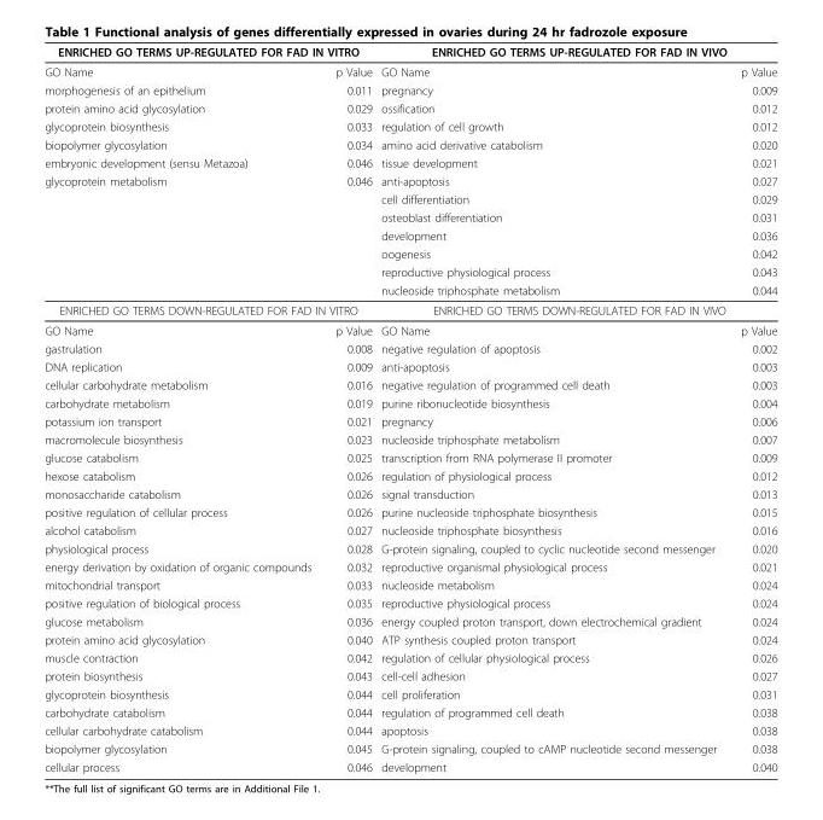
<table><thead><tr><td colspan="2">ENRICHED GO TERMS UP-REGULATED FOR FAD IN VITRO</td><td colspan="2">ENRICHED GO TERMS UP-REGULATED FOR FAD IN VIVO</td></tr><tr><td>GO Name</td><td>p Value</td><td>GO Name</td><td>p Value</td></tr></thead><tbody><tr><td>morphogenesis of an epithelium</td><td>0.011</td><td>pregnancy</td><td>0.009</td></tr><tr><td>protein amino acid glycosylation</td><td>0.029</td><td>ossification</td><td>0.012</td></tr><tr><td>glycoprotein biosynthesis</td><td>0.033</td><td>regulation of cell growth</td><td>0.012</td></tr><tr><td>biopolymer glycosylation</td><td>0.034</td><td>amino acid derivative catabolism</td><td>0.020</td></tr><tr><td>embryonic development (sensu Metazoa)</td><td>0.046</td><td>tissue development</td><td>0.021</td></tr><tr><td rowspan="7">glycoprotein metabolism</td><td>0.046</td><td>anti-apoptosis</td><td>0.027</td></tr><tr><td></td><td>cell differentiation</td><td>0.029</td></tr><tr><td></td><td>osteoblast differentiation</td><td>0.031</td></tr><tr><td></td><td>development</td><td>0.036</td></tr><tr><td></td><td>oogenesis</td><td>0.042</td></tr><tr><td></td><td>reproductive physiological process</td><td>0.043</td></tr><tr><td></td><td>nucleoside triphosphate metabolism</td><td>0.044</td></tr><tr><td colspan="2">ENRICHED GO TERMS DOWN-REGULATED FOR FAD IN VITRO</td><td colspan="2">ENRICHED GO TERMS DOWN-REGULATED FOR FAD IN VIVO</td></tr><tr><td>GO Name</td><td>p Value</td><td>GO Name</td><td>p Value</td></tr><tr><td>gastrulation</td><td>0.008</td><td>negative regulation of apoptosis</td><td>0.002</td></tr><tr><td>DNA replication</td><td>0.009</td><td>anti-apoptosis</td><td>0.003</td></tr><tr><td>cellular carbohydrate metabolism</td><td>0.016</td><td>negative regulation of programmed cell death</td><td>0.003</td></tr><tr><td>carbohydrate metabolism</td><td>0.019</td><td>purine ribonucleotide biosynthesis</td><td>0.004</td></tr><tr><td>potassium ion transport</td><td>0.021</td><td>pregnancy</td><td>0.006</td></tr><tr><td>macromolecule biosynthesis</td><td>0.023</td><td>nucleoside triphosphate metabolism</td><td>0.007</td></tr><tr><td>glucose catabolism</td><td>0.025</td><td>transcription from RNA polymerase II promoter</td><td>0.009</td></tr><tr><td>hexose catabolism</td><td>0.026</td><td>regulation of physiological process</td><td>0.012</td></tr><tr><td>monosaccharide catabolism</td><td>0.026</td><td>signal transduction</td><td>0.013</td></tr><tr><td>positive regulation of cellular process</td><td>0.026</td><td>purine nucleoside triphosphate biosynthesis</td><td>0.015</td></tr><tr><td>alcohol catabolism</td><td>0.027</td><td>nucleoside triphosphate biosynthesis</td><td>0.016</td></tr><tr><td>physiological process</td><td>0.028</td><td>G-protein signaling, coupled to cyclic nucleotide second messenger</td><td>0.020</td></tr><tr><td>energy derivation by oxidation of organic compounds</td><td>0.032</td><td>reproductive organismal physiological process</td><td>0.021</td></tr><tr><td>mitochondrial transport</td><td>0.033</td><td>nucleoside metabolism</td><td>0.024</td></tr><tr><td>positive regulation of biological process</td><td>0.035</td><td>reproductive physiological process</td><td>0.024</td></tr><tr><td>glucose metabolism</td><td>0.036</td><td>energy coupled proton transport, down electrochemical gradient</td><td>0.024</td></tr><tr><td>protein amino acid glycosylation</td><td>0.040</td><td>ATP synthesis coupled proton transport</td><td>0.024</td></tr><tr><td>muscle contraction</td><td>0.042</td><td>regulation of cellular physiological process</td><td>0.026</td></tr><tr><td>protein biosynthesis</td><td>0.043</td><td>cell-cell adhesion</td><td>0.027</td></tr><tr><td>glycoprotein biosynthesis</td><td>0.044</td><td>cell proliferation</td><td>0.031</td></tr><tr><td>carbohydrate catabolism</td><td>0.044</td><td>regulation of programmed cell death</td><td>0.038</td></tr><tr><td>cellular carbohydrate catabolism</td><td>0.044</td><td>apoptosis</td><td>0.038</td></tr><tr><td>biopolymer glycosylation</td><td>0.045</td><td>G-protein signaling, coupled to cAMP nucleotide second messenger</td><td>0.038</td></tr><tr><td>cellular process</td><td>0.046</td><td>development</td><td>0.040</td></tr></tbody></table>